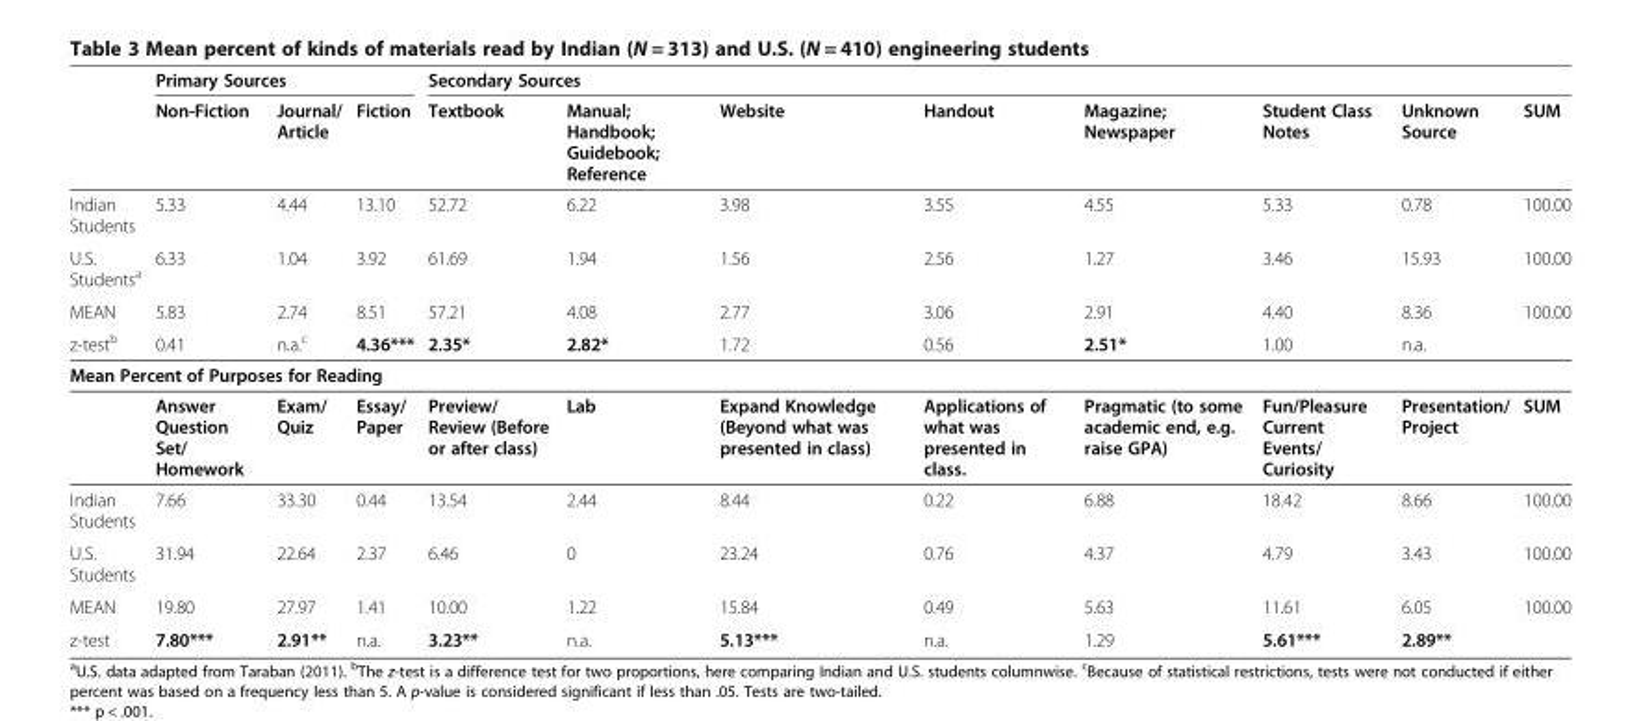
<table><thead><tr><td rowspan="2"></td><td colspan="3">Primary Sources</td><td colspan="8">Secondary Sources</td></tr><tr><td>Non-Fiction</td><td>Journal/ Article</td><td>Fiction</td><td>Textbook</td><td>Manual; Handbook; Guidebook; Reference</td><td>Website</td><td>Handout</td><td>Magazine; Newspaper</td><td>Student Class Notes</td><td>Unknown Source</td><td>SUM</td></tr></thead><tbody><tr><td>Indian Students</td><td>5.33</td><td>4.44</td><td>13.10</td><td>52.72</td><td>6.22</td><td>3.98</td><td>3.55</td><td>4.55</td><td>5.33</td><td>0.78</td><td>100.00</td></tr><tr><td>U.S. Students<sup>a</sup></td><td>6.33</td><td>1.04</td><td>3.92</td><td>61.69</td><td>1.94</td><td>1.56</td><td>2.56</td><td>1.27</td><td>3.46</td><td>15.93</td><td>100.00</td></tr><tr><td>MEAN</td><td>5.83</td><td>2.74</td><td>8.51</td><td>57.21</td><td>4.08</td><td>2.77</td><td>3.06</td><td>2.91</td><td>4.40</td><td>8.36</td><td>100.00</td></tr><tr><td>z-test<sup>b</sup></td><td>0.41</td><td>n.a.<sup>c</sup></td><td>4.36***</td><td>2.35*</td><td>2.82*</td><td>1.72</td><td>0.56</td><td>2.51*</td><td>1.00</td><td>n.a.</td><td></td></tr><tr><td colspan="12">Mean Percent of Purposes for Reading</td></tr><tr><td></td><td>Answer Question Set/ Homework</td><td>Exam/ Quiz</td><td>Essay/ Paper</td><td>Preview/ Review (Before or after class)</td><td>Lab</td><td>Expand Knowledge (Beyond what was presented in class)</td><td>Applications of what was presented in class.</td><td>Pragmatic (to some academic end, e.g. raise GPA)</td><td>Fun/Pleasure Current Events/ Curiosity</td><td>Presentation/ Project</td><td>SUM</td></tr><tr><td>Indian Students</td><td>7.66</td><td>33.30</td><td>0.44</td><td>13.54</td><td>2.44</td><td>8.44</td><td>0.22</td><td>6.88</td><td>18.42</td><td>8.66</td><td>100.00</td></tr><tr><td>U.S. Students</td><td>31.94</td><td>22.64</td><td>2.37</td><td>6.46</td><td>0</td><td>23.24</td><td>0.76</td><td>4.37</td><td>4.79</td><td>3.43</td><td>100.00</td></tr><tr><td>MEAN</td><td>19.80</td><td>27.97</td><td>1.41</td><td>10.00</td><td>1.22</td><td>15.84</td><td>0.49</td><td>5.63</td><td>11.61</td><td>6.05</td><td>100.00</td></tr><tr><td>z-test</td><td>7.80***</td><td>2.91**</td><td>n.a.</td><td>3.23**</td><td>n.a.</td><td>5.13***</td><td>n.a.</td><td>1.29</td><td>5.61***</td><td>2.89**</td><td></td></tr></tbody></table>